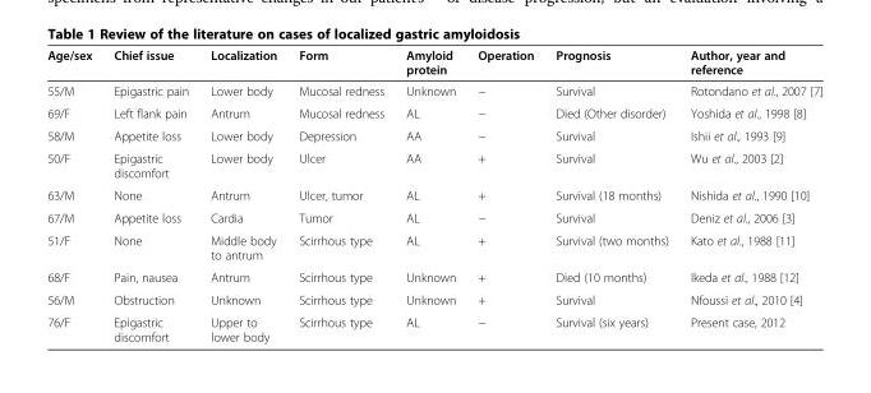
<table><thead><tr><td>Age/sex</td><td>Chief issue</td><td>Localization</td><td>Form</td><td>Amyloid protein</td><td>Operation</td><td>Prognosis</td><td>Author, year and reference</td></tr></thead><tbody><tr><td>55/M</td><td>Epigastric pain</td><td>Lower body</td><td>Mucosal redness</td><td>Unknown</td><td>−</td><td>Survival</td><td>Rotondano et al., 2007 [7]</td></tr><tr><td>69/F</td><td>Left flank pain</td><td>Antrum</td><td>Mucosal redness</td><td>AL</td><td>−</td><td>Died (Other disorder)</td><td>Yoshida et al., 1998 [8]</td></tr><tr><td>58/M</td><td>Appetite loss</td><td>Lower body</td><td>Depression</td><td>AA</td><td>−</td><td>Survival</td><td>Ishii et al., 1993 [9]</td></tr><tr><td>50/F</td><td>Epigastric discomfort</td><td>Lower body</td><td>Ulcer</td><td>AA</td><td>+</td><td>Survival</td><td>Wu et al., 2003 [2]</td></tr><tr><td>63/M</td><td>None</td><td>Antrum</td><td>Ulcer, tumor</td><td>AL</td><td>+</td><td>Survival (18 months)</td><td>Nishida et al., 1990 [10]</td></tr><tr><td>67/M</td><td>Appetite loss</td><td>Cardia</td><td>Tumor</td><td>AL</td><td>−</td><td>Survival</td><td>Deniz et al., 2006 [3]</td></tr><tr><td>51/F</td><td>None</td><td>Middle body to antrum</td><td>Scirrhous type</td><td>AL</td><td>+</td><td>Survival (two months)</td><td>Kato et al., 1988 [11]</td></tr><tr><td>68/F</td><td>Pain, nausea</td><td>Antrum</td><td>Scirrhous type</td><td>Unknown</td><td>+</td><td>Died (10 months)</td><td>Ikeda et al., 1988 [12]</td></tr><tr><td>56/M</td><td>Obstruction</td><td>Unknown</td><td>Scirrhous type</td><td>Unknown</td><td>+</td><td>Survival</td><td>Nfoussi et al., 2010 [4]</td></tr><tr><td>76/F</td><td>Epigastric discomfort</td><td>Upper to lower body</td><td>Scirrhous type</td><td>AL</td><td>−</td><td>Survival (six years)</td><td>Present case, 2012</td></tr></tbody></table>